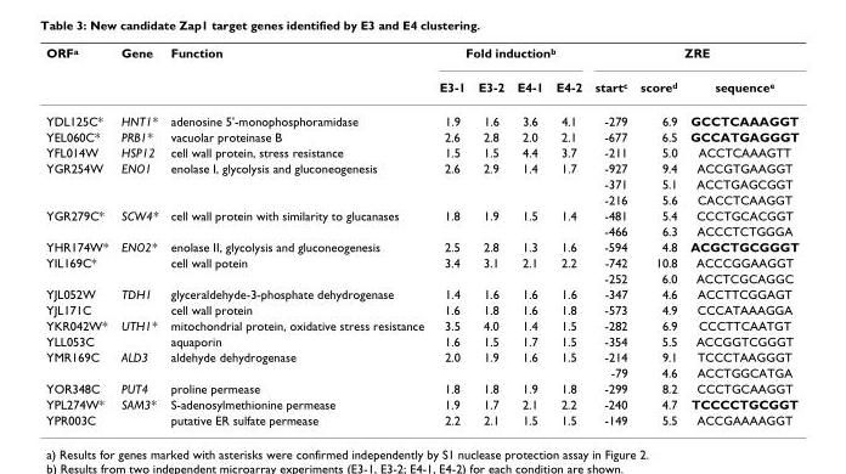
<table><thead><tr><td rowspan="2">ORF<sup>a</sup></td><td rowspan="2">Gene</td><td rowspan="2">Function</td><td colspan="4">Fold induction<sup>b</sup></td><td colspan="3">ZRE</td></tr><tr><td>E3-1</td><td>E3-2</td><td>E4-1</td><td>E4-2</td><td>start<sup>c</sup></td><td>score<sup>d</sup></td><td>sequence<sup>e</sup></td></tr></thead><tbody><tr><td>YDL125C*</td><td>HNT1*</td><td>adenosine 5&#x27;-monophosphoramidase</td><td>1.9</td><td>1.6</td><td>3.6</td><td>4.1</td><td>-279</td><td>6.9</td><td>GCCTCAAAGGT</td></tr><tr><td>YEL060C*</td><td>PRB1*</td><td>vacuolar proteinase B</td><td>2.6</td><td>2.8</td><td>2.0</td><td>2.1</td><td>-677</td><td>6.5</td><td>GCCATGAGGGT</td></tr><tr><td>YFL014W</td><td>HSP12</td><td>cell wall protein, stress resistance</td><td>1.5</td><td>1.5</td><td>4.4</td><td>3.7</td><td>-211</td><td>5.0</td><td>ACCTCAAAGTT</td></tr><tr><td rowspan="3">YGR254W</td><td>ENO1</td><td>enolase I, glycolysis and gluconeogenesis</td><td>2.6</td><td>2.9</td><td>1.4</td><td>1.7</td><td>-927</td><td>9.4</td><td>ACCGTGAAGGT</td></tr><tr><td></td><td></td><td></td><td></td><td></td><td></td><td>-371</td><td>5.1</td><td>ACCTGAGCGGT</td></tr><tr><td></td><td></td><td></td><td></td><td></td><td></td><td>-216</td><td>5.6</td><td>CACCTCAAGGT</td></tr><tr><td rowspan="2">YGR279C*</td><td>SCW4*</td><td>cell wall protein with similarity to glucanases</td><td>1.8</td><td>1.9</td><td>1.5</td><td>1.4</td><td>-481</td><td>5.4</td><td>CCCTGCACGGT</td></tr><tr><td></td><td></td><td></td><td></td><td></td><td></td><td>-466</td><td>6.3</td><td>ACCCTCTGGGA</td></tr><tr><td>YHR174W*</td><td>ENO2*</td><td>enolase II, glycolysis and gluconeogenesis</td><td>2.5</td><td>2.8</td><td>1.3</td><td>1.6</td><td>-594</td><td>4.8</td><td>ACGCTGCGGGT</td></tr><tr><td rowspan="2">YIL169C*</td><td></td><td>cell wall potein</td><td>3.4</td><td>3.1</td><td>2.1</td><td>2.2</td><td>-742</td><td>10.8</td><td>ACCCGGAAGGT</td></tr><tr><td></td><td></td><td></td><td></td><td></td><td></td><td>-252</td><td>6.0</td><td>ACCTCGCAGGC</td></tr><tr><td>YJL052W</td><td>TDH1</td><td>glyceraldehyde-3-phosphate dehydrogenase</td><td>1.4</td><td>1.6</td><td>1.6</td><td>1.6</td><td>-347</td><td>4.6</td><td>ACCTTCGGAGT</td></tr><tr><td>YJL171C</td><td></td><td>cell wall protein</td><td>1.6</td><td>1.8</td><td>1.6</td><td>1.8</td><td>-573</td><td>4.9</td><td>CCCATAAAGGA</td></tr><tr><td>YKR042W*</td><td>UTH1*</td><td>mitochondrial protein, oxidative stress resistance</td><td>3.5</td><td>4.0</td><td>1.4</td><td>1.5</td><td>-282</td><td>6.9</td><td>CCCTTCAATGT</td></tr><tr><td>YLL053C</td><td></td><td>aquaporin</td><td>1.6</td><td>1.5</td><td>1.7</td><td>1.5</td><td>-354</td><td>5.5</td><td>ACCGGTCGGGT</td></tr><tr><td rowspan="2">YMR169C</td><td>ALD3</td><td>aldehyde dehydrogenase</td><td>2.0</td><td>1.9</td><td>1.6</td><td>1.5</td><td>-214</td><td>9.1</td><td>TCCCTAAGGGT</td></tr><tr><td></td><td></td><td></td><td></td><td></td><td></td><td>-79</td><td>4.6</td><td>ACCTGGCATGA</td></tr><tr><td>YOR348C</td><td>PUT4</td><td>proline permease</td><td>1.8</td><td>1.8</td><td>1.9</td><td>1.8</td><td>-299</td><td>8.2</td><td>CCCTGCAAGGT</td></tr><tr><td>YPL274W*</td><td>SAM3*</td><td>S-adenosylmethionine permease</td><td>1.9</td><td>1.7</td><td>2.1</td><td>2.2</td><td>-240</td><td>4.7</td><td>TCCCCTGCGGT</td></tr><tr><td>YPR003C</td><td></td><td>putative ER sulfate permease</td><td>2.2</td><td>2.1</td><td>1.5</td><td>1.5</td><td>-149</td><td>5.5</td><td>ACCGAAAAGGT</td></tr></tbody></table>